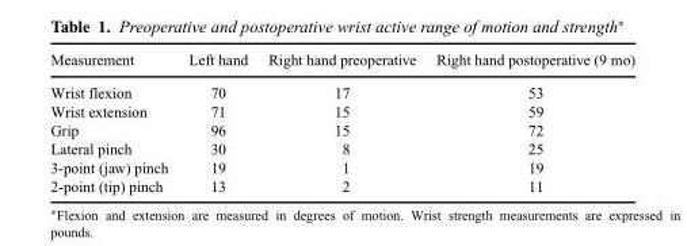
<table><thead><tr><td>Measurement</td><td>Left hand</td><td>Right hand preoperative</td><td>Right hand postoperative (9 mo)</td></tr></thead><tbody><tr><td>Wrist flexion</td><td>70</td><td>17</td><td>53</td></tr><tr><td>Wrist extension</td><td>71</td><td>15</td><td>59</td></tr><tr><td>Grip</td><td>96</td><td>15</td><td>72</td></tr><tr><td>Lateral pinch</td><td>30</td><td>8</td><td>25</td></tr><tr><td>3-point (jaw) pinch</td><td>19</td><td>1</td><td>19</td></tr><tr><td>2-point (tip) pinch</td><td>13</td><td>2</td><td>11</td></tr></tbody></table>